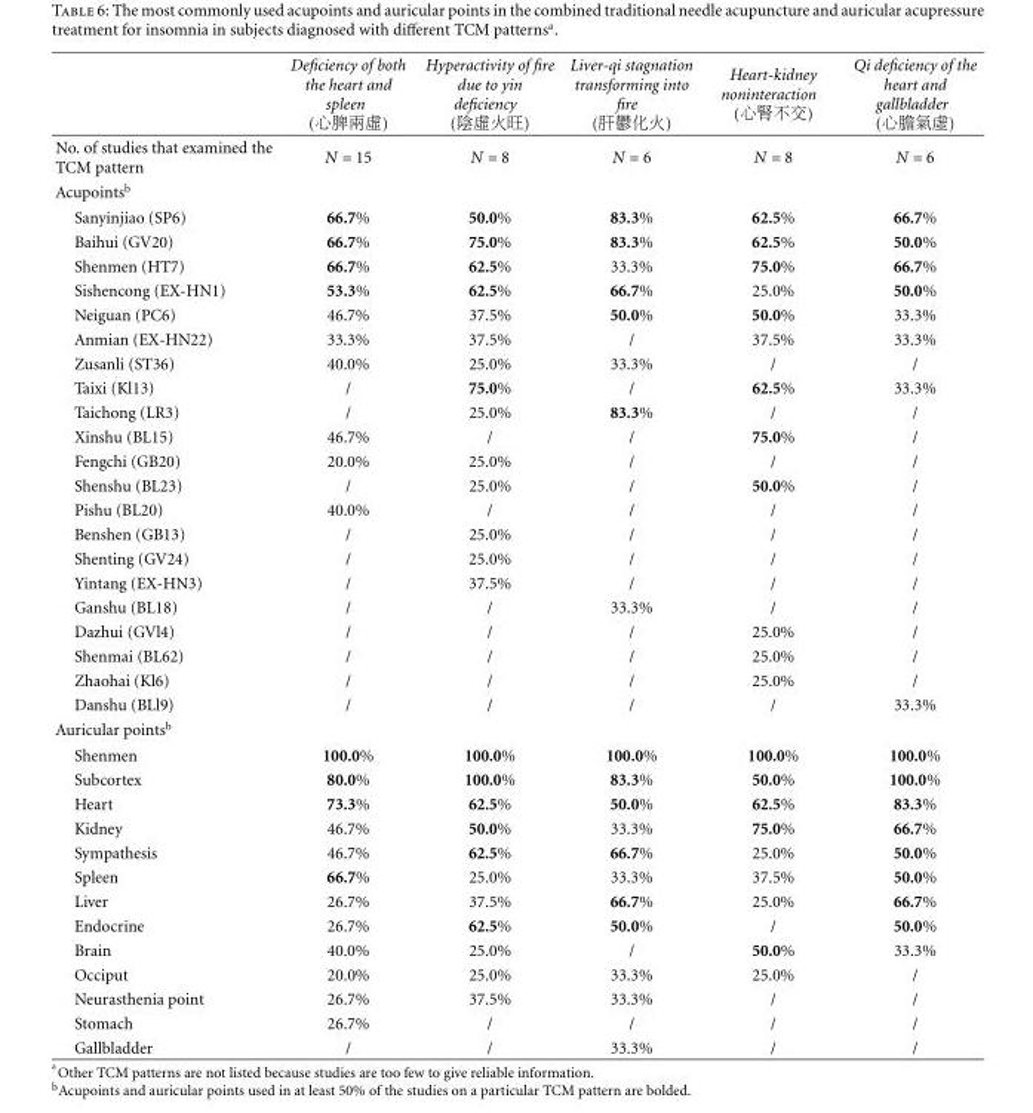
<table><thead><tr><td></td><td>Deficiency of both the heart and spleen (心脾兩虛)</td><td>Hyperactivity of fire due to yin deficiency (陰虛火旺)</td><td>Liver-qi stagnation transforming into fire (肝鬱化火)</td><td>Heart-kidney noninteraction (心腎不交)</td><td>Qi deficiency of the heart and gallbladder (心膽氣虛)</td></tr></thead><tbody><tr><td>No. of studies that examined the TCM pattern</td><td>N = 15</td><td>N = 8</td><td>N = 6</td><td>N = 8</td><td>N = 6</td></tr><tr><td colspan="6">Acupoints<sup>b</sup></td></tr><tr><td>Sanyinjiao (SP6)</td><td>66.7%</td><td>50.0%</td><td>83.3%</td><td>62.5%</td><td>66.7%</td></tr><tr><td>Baihui (GV20)</td><td>66.7%</td><td>75.0%</td><td>83.3%</td><td>62.5%</td><td>50.0%</td></tr><tr><td>Shenmen (HT7)</td><td>66.7%</td><td>62.5%</td><td>33.3%</td><td>75.0%</td><td>66.7%</td></tr><tr><td>Sishencong (EX-HN1)</td><td>53.3%</td><td>62.5%</td><td>66.7%</td><td>25.0%</td><td>50.0%</td></tr><tr><td>Neiguan (PC6)</td><td>46.7%</td><td>37.5%</td><td>50.0%</td><td>50.0%</td><td>33.3%</td></tr><tr><td>Anmian (EX-HN22)</td><td>33.3%</td><td>37.5%</td><td>/</td><td>37.5%</td><td>33.3%</td></tr><tr><td>Zusanli (ST36)</td><td>40.0%</td><td>25.0%</td><td>33.3%</td><td>/</td><td>/</td></tr><tr><td>Taixi (Kl13)</td><td>/</td><td>75.0%</td><td>/</td><td>62.5%</td><td>33.3%</td></tr><tr><td>Taichong (LR3)</td><td>/</td><td>25.0%</td><td>83.3%</td><td>/</td><td>/</td></tr><tr><td>Xinshu (BL15)</td><td>46.7%</td><td>/</td><td>/</td><td>75.0%</td><td>/</td></tr><tr><td>Fengchi (GB20)</td><td>20.0%</td><td>25.0%</td><td>/</td><td>/</td><td>/</td></tr><tr><td>Shenshu (BL23)</td><td>/</td><td>25.0%</td><td>/</td><td>50.0%</td><td>/</td></tr><tr><td>Pishu (BL20)</td><td>40.0%</td><td>/</td><td>/</td><td>/</td><td>/</td></tr><tr><td>Benshen (GB13)</td><td>/</td><td>25.0%</td><td>/</td><td>/</td><td>/</td></tr><tr><td>Shenting (GV24)</td><td>/</td><td>25.0%</td><td>/</td><td>/</td><td>/</td></tr><tr><td>Yintang (EX-HN3)</td><td>/</td><td>37.5%</td><td>/</td><td>/</td><td>/</td></tr><tr><td>Ganshu (BL18)</td><td>/</td><td>/</td><td>33.3%</td><td>/</td><td>/</td></tr><tr><td>Dazhui (GVl4)</td><td>/</td><td>/</td><td>/</td><td>25.0%</td><td>/</td></tr><tr><td>Shenmai (BL62)</td><td>/</td><td>/</td><td>/</td><td>25.0%</td><td>/</td></tr><tr><td>Zhaohai (Kl6)</td><td>/</td><td>/</td><td>/</td><td>25.0%</td><td>/</td></tr><tr><td>Danshu (BLl9)</td><td>/</td><td>/</td><td>/</td><td>/</td><td>33.3%</td></tr><tr><td colspan="6">Auricular points<sup>b</sup></td></tr><tr><td>Shenmen</td><td>100.0%</td><td>100.0%</td><td>100.0%</td><td>100.0%</td><td>100.0%</td></tr><tr><td>Subcortex</td><td>80.0%</td><td>100.0%</td><td>83.3%</td><td>50.0%</td><td>100.0%</td></tr><tr><td>Heart</td><td>73.3%</td><td>62.5%</td><td>50.0%</td><td>62.5%</td><td>83.3%</td></tr><tr><td>Kidney</td><td>46.7%</td><td>50.0%</td><td>33.3%</td><td>75.0%</td><td>66.7%</td></tr><tr><td>Sympathesis</td><td>46.7%</td><td>62.5%</td><td>66.7%</td><td>25.0%</td><td>50.0%</td></tr><tr><td>Spleen</td><td>66.7%</td><td>25.0%</td><td>33.3%</td><td>37.5%</td><td>50.0%</td></tr><tr><td>Liver</td><td>26.7%</td><td>37.5%</td><td>66.7%</td><td>25.0%</td><td>66.7%</td></tr><tr><td>Endocrine</td><td>26.7%</td><td>62.5%</td><td>50.0%</td><td>/</td><td>50.0%</td></tr><tr><td>Brain</td><td>40.0%</td><td>25.0%</td><td>/</td><td>50.0%</td><td>33.3%</td></tr><tr><td>Occiput</td><td>20.0%</td><td>25.0%</td><td>33.3%</td><td>25.0%</td><td>/</td></tr><tr><td>Neurasthenia point</td><td>26.7%</td><td>37.5%</td><td>33.3%</td><td>/</td><td>/</td></tr><tr><td>Stomach</td><td>26.7%</td><td>/</td><td>/</td><td>/</td><td>/</td></tr><tr><td>Gallbladder</td><td>/</td><td>/</td><td>33.3%</td><td>/</td><td>/</td></tr></tbody></table>